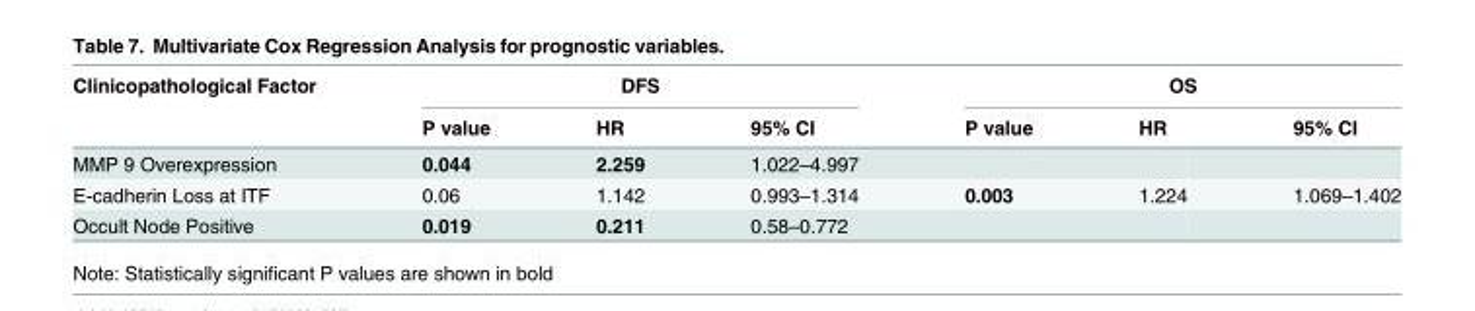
<table><thead><tr><td rowspan="2">Clinicopathological Factor</td><td colspan="3">DFS</td><td colspan="3">OS</td></tr><tr><td>P value</td><td>HR</td><td>95% CI</td><td>P value</td><td>HR</td><td>95% CI</td></tr></thead><tbody><tr><td>MMP 9 Overexpression</td><td>0.044</td><td>2.259</td><td>1.022–4.997</td><td></td><td></td><td></td></tr><tr><td>E-cadherin Loss at ITF</td><td>0.06</td><td>1.142</td><td>0.993–1.314</td><td>0.003</td><td>1.224</td><td>1.069–1.402</td></tr><tr><td>Occult Node Positive</td><td>0.019</td><td>0.211</td><td>0.58–0.772</td><td></td><td></td><td></td></tr></tbody></table>